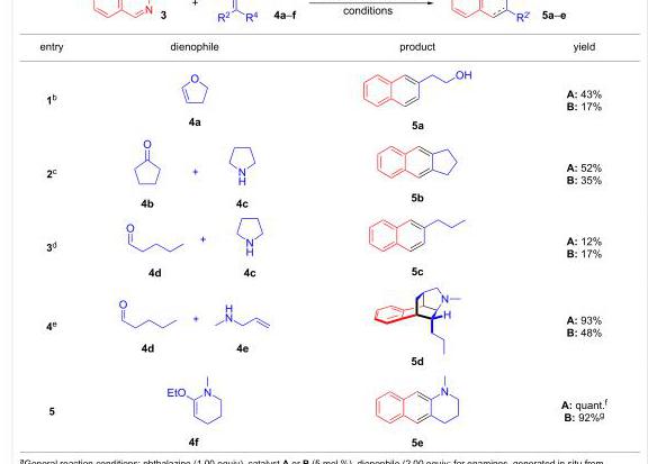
<table><tbody><tr><td>entry</td><td>dienophile</td><td>product</td><td>yield</td></tr><tr><td>1<sup>b</sup></td><td></td><td></td><td>A: 43% B: 17%</td></tr><tr><td>2<sup>c</sup></td><td></td><td></td><td>A: 52% B: 35%</td></tr><tr><td>3<sup>d</sup></td><td></td><td></td><td>A: 12% B: 17%</td></tr><tr><td>4<sup>e</sup></td><td></td><td></td><td>A: 93% B: 48%</td></tr><tr><td>5</td><td></td><td></td><td>A: quant.<sup>f</sup> B: 92%<sup>g</sup></td></tr></tbody></table>